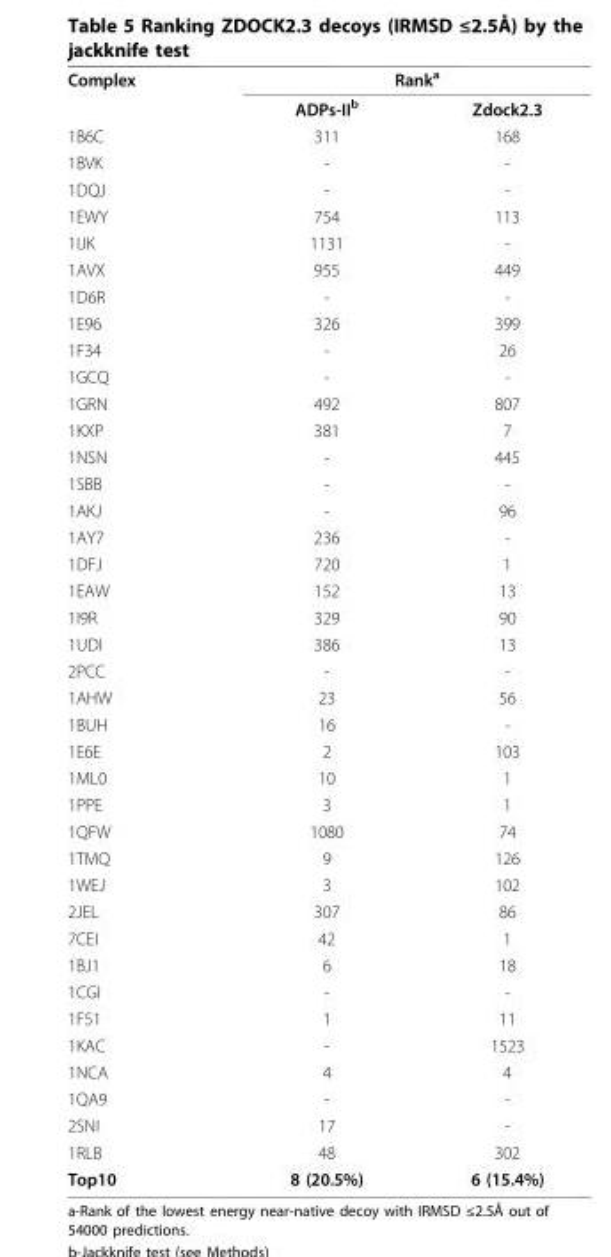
<table><tbody><tr><td rowspan="2">Complex</td><td colspan="2">Rank<sup>a</sup></td></tr><tr><td>ADPs-II<sup>b</sup></td><td>Zdock2.3</td></tr><tr><td>1B6C</td><td>311</td><td>168</td></tr><tr><td>1BVK</td><td>-</td><td>-</td></tr><tr><td>1DQJ</td><td>-</td><td>-</td></tr><tr><td>1EWY</td><td>754</td><td>113</td></tr><tr><td>1IJK</td><td>1131</td><td>-</td></tr><tr><td>1AVX</td><td>955</td><td>449</td></tr><tr><td>1D6R</td><td>-</td><td>-</td></tr><tr><td>1E96</td><td>326</td><td>399</td></tr><tr><td>1F34</td><td>-</td><td>26</td></tr><tr><td>1GCQ</td><td>-</td><td>-</td></tr><tr><td>1GRN</td><td>492</td><td>807</td></tr><tr><td>1KXP</td><td>381</td><td>7</td></tr><tr><td>1NSN</td><td>-</td><td>445</td></tr><tr><td>1SBB</td><td>-</td><td>-</td></tr><tr><td>1AKJ</td><td>-</td><td>96</td></tr><tr><td>1AY7</td><td>236</td><td>-</td></tr><tr><td>1DFJ</td><td>720</td><td>1</td></tr><tr><td>1EAW</td><td>152</td><td>13</td></tr><tr><td>1I9R</td><td>329</td><td>90</td></tr><tr><td>1UDI</td><td>386</td><td>13</td></tr><tr><td>2PCC</td><td>-</td><td>-</td></tr><tr><td>1AHW</td><td>23</td><td>56</td></tr><tr><td>1BUH</td><td>16</td><td>-</td></tr><tr><td>1E6E</td><td>2</td><td>103</td></tr><tr><td>1ML0</td><td>10</td><td>1</td></tr><tr><td>1PPE</td><td>3</td><td>1</td></tr><tr><td>1QFW</td><td>1080</td><td>74</td></tr><tr><td>1TMQ</td><td>9</td><td>126</td></tr><tr><td>1WEJ</td><td>3</td><td>102</td></tr><tr><td>2JEL</td><td>307</td><td>86</td></tr><tr><td>7CEI</td><td>42</td><td>1</td></tr><tr><td>1BJ1</td><td>6</td><td>18</td></tr><tr><td>1CGI</td><td>-</td><td>-</td></tr><tr><td>1F51</td><td>1</td><td>11</td></tr><tr><td>1KAC</td><td>-</td><td>1523</td></tr><tr><td>1NCA</td><td>4</td><td>4</td></tr><tr><td>1QA9</td><td>-</td><td>-</td></tr><tr><td>2SNI</td><td>17</td><td>-</td></tr><tr><td>1RLB</td><td>48</td><td>302</td></tr><tr><td>Top10</td><td>8 (20.5%)</td><td>6 (15.4%)</td></tr></tbody></table>